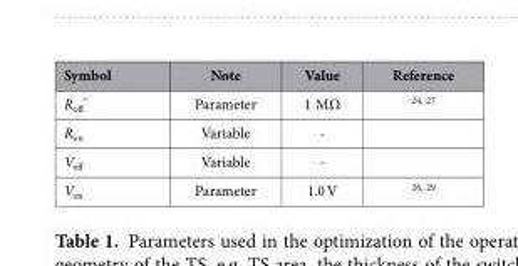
<table><thead><tr><td>Symbol</td><td>Note</td><td>Value</td><td>Reference</td></tr></thead><tbody><tr><td>R<sub>off</sub> *</td><td>Parameter</td><td>1 MΩ</td><td>24, 27</td></tr><tr><td>R<sub>on</sub></td><td>Variable</td><td>-</td><td></td></tr><tr><td>V<sub>off</sub></td><td>Variable</td><td>-</td><td></td></tr><tr><td>V<sub>on</sub></td><td>Parameter</td><td>1.0 V</td><td>26, 29</td></tr></tbody></table>